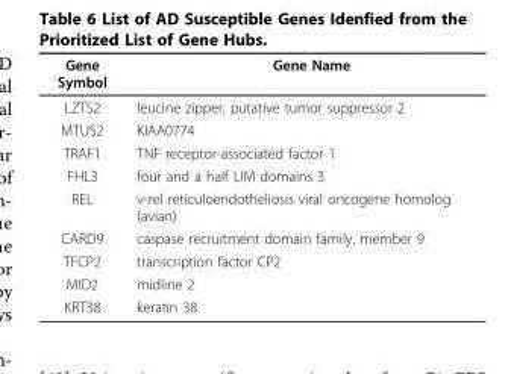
<table><thead><tr><td>Gene Symbol</td><td>Gene Name</td></tr></thead><tbody><tr><td>LZTS2</td><td>leucine zipper, putative tumor suppressor 2</td></tr><tr><td>MTUS2</td><td>KIAA0774</td></tr><tr><td>TRAF1</td><td>TNF receptor-associated factor 1</td></tr><tr><td>FHL3</td><td>four and a half LIM domains 3</td></tr><tr><td>REL</td><td>v-rel reticuloendotheliosis viral oncogene homolog (avian)</td></tr><tr><td>CARD9</td><td>caspase recruitment domain family, member 9</td></tr><tr><td>TFCP2</td><td>transcription factor CP2</td></tr><tr><td>MID2</td><td>midline 2</td></tr><tr><td>KRT38</td><td>keratin 38</td></tr></tbody></table>